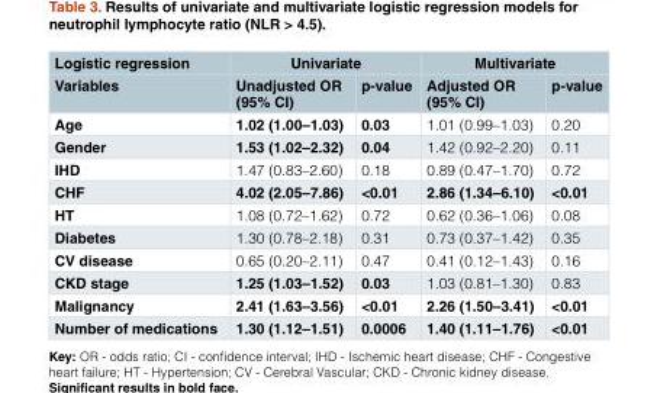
<table><thead><tr><td rowspan="2">Logistic regression Variables</td><td colspan="2">Univariate</td><td colspan="2">Multivariate</td></tr><tr><td>Unadjusted OR (95% CI)</td><td>p-value</td><td>Adjusted OR (95% CI)</td><td>p-value</td></tr></thead><tbody><tr><td>Age</td><td>1.02 (1.00–1.03)</td><td>0.03</td><td>1.01 (0.99–1.03)</td><td>0.20</td></tr><tr><td>Gender</td><td>1.53 (1.02–2.32)</td><td>0.04</td><td>1.42 (0.92–2.20)</td><td>0.11</td></tr><tr><td>IHD</td><td>1.47 (0.83–2.60)</td><td>0.18</td><td>0.89 (0.47–1.70)</td><td>0.72</td></tr><tr><td>CHF</td><td>4.02 (2.05–7.86)</td><td>&lt;0.01</td><td>2.86 (1.34–6.10)</td><td>&lt;0.01</td></tr><tr><td>HT</td><td>1.08 (0.72–1.62)</td><td>0.72</td><td>0.62 (0.36–1.06)</td><td>0.08</td></tr><tr><td>Diabetes</td><td>1.30 (0.78–2.18)</td><td>0.31</td><td>0.73 (0.37–1.42)</td><td>0.35</td></tr><tr><td>CV disease</td><td>0.65 (0.20–2.11)</td><td>0.47</td><td>0.41 (0.12–1.43)</td><td>0.16</td></tr><tr><td>CKD stage</td><td>1.25 (1.03–1.52)</td><td>0.03</td><td>1.03 (0.81–1.30)</td><td>0.83</td></tr><tr><td>Malignancy</td><td>2.41 (1.63–3.56)</td><td>&lt;0.01</td><td>2.26 (1.50–3.41)</td><td>&lt;0.01</td></tr><tr><td>Number of medications</td><td>1.30 (1.12–1.51)</td><td>0.0006</td><td>1.40 (1.11–1.76)</td><td>&lt;0.01</td></tr></tbody></table>